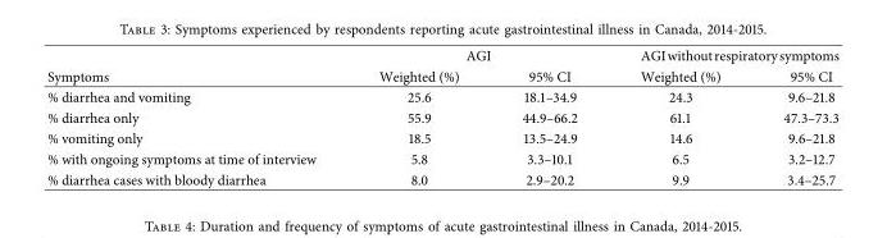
<table><thead><tr><td rowspan="2">Symptoms</td><td colspan="2">AGI</td><td colspan="2">AGIwithoutrespiratorysymptoms</td></tr><tr><td>Weighted (%)</td><td>95% CI</td><td>Weighted (%)</td><td>95% CI</td></tr></thead><tbody><tr><td>% diarrhea and vomiting</td><td>25.6</td><td>18.1–34.9</td><td>24.3</td><td>9.6–21.8</td></tr><tr><td>% diarrhea only</td><td>55.9</td><td>44.9–66.2</td><td>61.1</td><td>47.3–73.3</td></tr><tr><td>% vomiting only</td><td>18.5</td><td>13.5–24.9</td><td>14.6</td><td>9.6–21.8</td></tr><tr><td>% with ongoing symptoms at time of interview</td><td>5.8</td><td>3.3–10.1</td><td>6.5</td><td>3.2–12.7</td></tr><tr><td>% diarrhea cases with bloody diarrhea</td><td>8.0</td><td>2.9–20.2</td><td>9.9</td><td>3.4–25.7</td></tr></tbody></table>